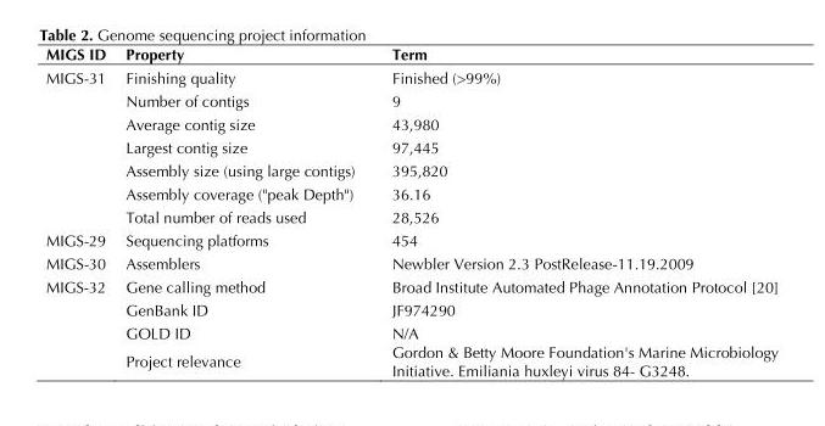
<table><thead><tr><td>MIGS ID</td><td>Property</td><td>Term</td></tr></thead><tbody><tr><td rowspan="7">MIGS-31</td><td>Finishing quality</td><td>Finished (&gt;99%)</td></tr><tr><td>Number of contigs</td><td>9</td></tr><tr><td>Average contig size</td><td>43,980</td></tr><tr><td>Largest contig size</td><td>97,445</td></tr><tr><td>Assembly size (using large contigs)</td><td>395,820</td></tr><tr><td>Assembly coverage (&quot;peak Depth&quot;)</td><td>36.16</td></tr><tr><td>Total number of reads used</td><td>28,526</td></tr><tr><td>MIGS-29</td><td>Sequencing platforms</td><td>454</td></tr><tr><td>MIGS-30</td><td>Assemblers</td><td>Newbler Version 2.3 PostRelease-11.19.2009</td></tr><tr><td rowspan="4">MIGS-32</td><td>Gene calling method</td><td>Broad Institute Automated Phage Annotation Protocol [20]</td></tr><tr><td>GenBank ID</td><td>JF974290</td></tr><tr><td>GOLD ID</td><td>N/A</td></tr><tr><td>Project relevance</td><td>Gordon &amp; Betty Moore Foundation&#x27;s Marine Microbiology Initiative. Emiliania huxleyi virus 84- G3248.</td></tr></tbody></table>